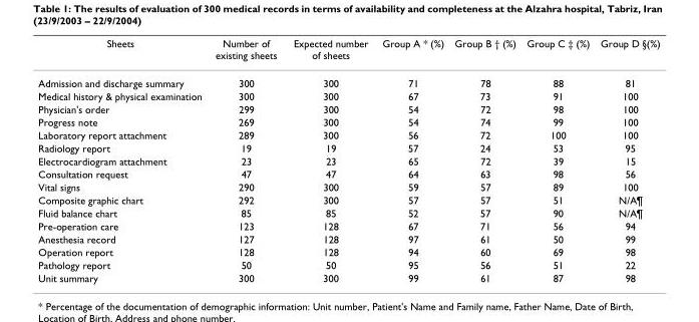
<table><thead><tr><td>Sheets</td><td>Number of existing sheets</td><td>Expected number of sheets</td><td>Group A * (%)</td><td>Group B † (%)</td><td>Group C ‡ (%)</td><td>Group D §(%)</td></tr></thead><tbody><tr><td>Admission and discharge summary</td><td>300</td><td>300</td><td>71</td><td>78</td><td>88</td><td>81</td></tr><tr><td>Medical history &amp; physical examination</td><td>300</td><td>300</td><td>67</td><td>73</td><td>91</td><td>100</td></tr><tr><td>Physician&#x27;s order</td><td>299</td><td>300</td><td>54</td><td>72</td><td>98</td><td>100</td></tr><tr><td>Progress note</td><td>269</td><td>300</td><td>54</td><td>74</td><td>99</td><td>100</td></tr><tr><td>Laboratory report attachment</td><td>289</td><td>300</td><td>56</td><td>72</td><td>100</td><td>100</td></tr><tr><td>Radiology report</td><td>19</td><td>19</td><td>57</td><td>24</td><td>53</td><td>95</td></tr><tr><td>Electrocardiogram attachment</td><td>23</td><td>23</td><td>65</td><td>72</td><td>39</td><td>15</td></tr><tr><td>Consultation request</td><td>47</td><td>47</td><td>64</td><td>63</td><td>98</td><td>56</td></tr><tr><td>Vital signs</td><td>290</td><td>300</td><td>59</td><td>57</td><td>89</td><td>100</td></tr><tr><td>Composite graphic chart</td><td>292</td><td>300</td><td>57</td><td>57</td><td>51</td><td>N/A¶</td></tr><tr><td>Fluid balance chart</td><td>85</td><td>85</td><td>52</td><td>57</td><td>90</td><td>N/A¶</td></tr><tr><td>Pre-operation care</td><td>123</td><td>128</td><td>67</td><td>71</td><td>56</td><td>94</td></tr><tr><td>Anesthesia record</td><td>127</td><td>128</td><td>97</td><td>61</td><td>50</td><td>99</td></tr><tr><td>Operation report</td><td>128</td><td>128</td><td>94</td><td>60</td><td>69</td><td>98</td></tr><tr><td>Pathology report</td><td>50</td><td>50</td><td>95</td><td>56</td><td>51</td><td>22</td></tr><tr><td>Unit summary</td><td>300</td><td>300</td><td>99</td><td>61</td><td>87</td><td>98</td></tr></tbody></table>